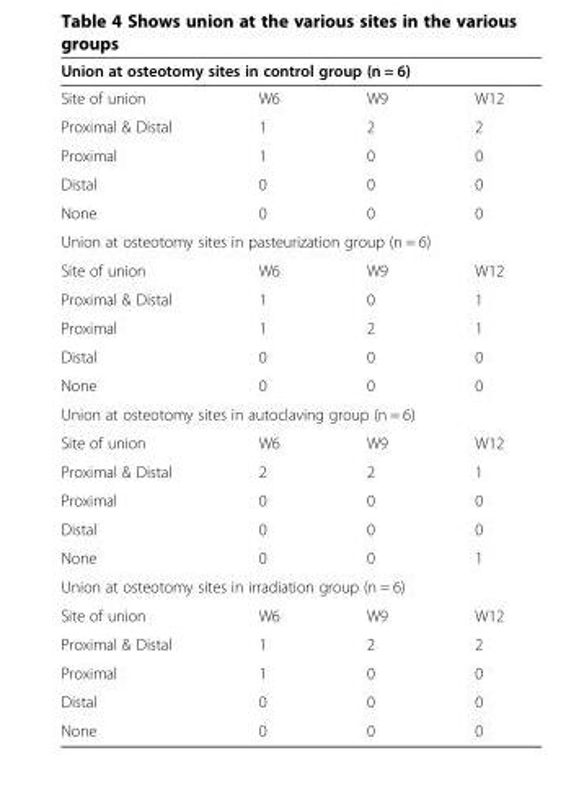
<table><thead><tr><td colspan="4">Union at osteotomy sites in control group (n = 6)</td></tr><tr><td>Site of union</td><td>W6</td><td>W9</td><td>W12</td></tr></thead><tbody><tr><td>Proximal &amp; Distal</td><td>1</td><td>2</td><td>2</td></tr><tr><td>Proximal</td><td>1</td><td>0</td><td>0</td></tr><tr><td>Distal</td><td>0</td><td>0</td><td>0</td></tr><tr><td>None</td><td>0</td><td>0</td><td>0</td></tr><tr><td colspan="4">Union at osteotomy sites in pasteurization group (n = 6)</td></tr><tr><td>Site of union</td><td>W6</td><td>W9</td><td>W12</td></tr><tr><td>Proximal &amp; Distal</td><td>1</td><td>0</td><td>1</td></tr><tr><td>Proximal</td><td>1</td><td>2</td><td>1</td></tr><tr><td>Distal</td><td>0</td><td>0</td><td>0</td></tr><tr><td>None</td><td>0</td><td>0</td><td>0</td></tr><tr><td colspan="4">Union at osteotomy sites in autoclaving group (n = 6)</td></tr><tr><td>Site of union</td><td>W6</td><td>W9</td><td>W12</td></tr><tr><td>Proximal &amp; Distal</td><td>2</td><td>2</td><td>1</td></tr><tr><td>Proximal</td><td>0</td><td>0</td><td>0</td></tr><tr><td>Distal</td><td>0</td><td>0</td><td>0</td></tr><tr><td>None</td><td>0</td><td>0</td><td>1</td></tr><tr><td colspan="4">Union at osteotomy sites in irradiation group (n = 6)</td></tr><tr><td>Site of union</td><td>W6</td><td>W9</td><td>W12</td></tr><tr><td>Proximal &amp; Distal</td><td>1</td><td>2</td><td>2</td></tr><tr><td>Proximal</td><td>1</td><td>0</td><td>0</td></tr><tr><td>Distal</td><td>0</td><td>0</td><td>0</td></tr><tr><td>None</td><td>0</td><td>0</td><td>0</td></tr></tbody></table>